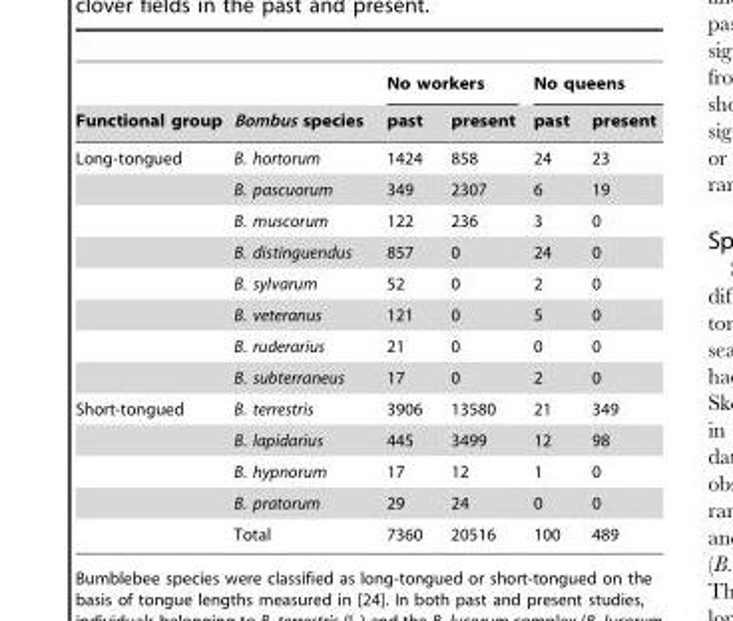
<table><thead><tr><td rowspan="2">Functional group</td><td rowspan="2">Bombus species</td><td colspan="2">No workers</td><td colspan="2">No queens</td></tr><tr><td>past</td><td>present</td><td>past</td><td>present</td></tr></thead><tbody><tr><td rowspan="8">Long-tongued</td><td>B. hortorum</td><td>1424</td><td>858</td><td>24</td><td>23</td></tr><tr><td>B. pascuorum</td><td>349</td><td>2307</td><td>6</td><td>19</td></tr><tr><td>B. muscorum</td><td>122</td><td>236</td><td>3</td><td>0</td></tr><tr><td>B. distinguendus</td><td>857</td><td>0</td><td>24</td><td>0</td></tr><tr><td>B. sylvarum</td><td>52</td><td>0</td><td>2</td><td>0</td></tr><tr><td>B. veteranus</td><td>121</td><td>0</td><td>5</td><td>0</td></tr><tr><td>B. ruderarius</td><td>21</td><td>0</td><td>0</td><td>0</td></tr><tr><td>B. subterraneus</td><td>17</td><td>0</td><td>2</td><td>0</td></tr><tr><td rowspan="5">Short-tongued</td><td>B. terrestris</td><td>3906</td><td>13580</td><td>21</td><td>349</td></tr><tr><td>B. lapidarius</td><td>445</td><td>3499</td><td>12</td><td>98</td></tr><tr><td>B. hypnorum</td><td>17</td><td>12</td><td>1</td><td>0</td></tr><tr><td>B. pratorum</td><td>29</td><td>24</td><td>0</td><td>0</td></tr><tr><td>Total</td><td>7360</td><td>20516</td><td>100</td><td>489</td></tr></tbody></table>